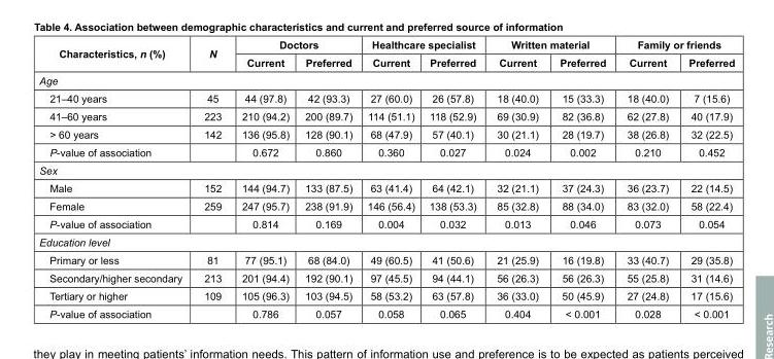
<table><thead><tr><td rowspan="2">Characteristics, n (%)</td><td rowspan="2">N</td><td colspan="2">Doctors</td><td colspan="2">Healthcare specialist</td><td colspan="2">Written material</td><td colspan="2">Family or friends</td></tr><tr><td>Current</td><td>Preferred</td><td>Current</td><td>Preferred</td><td>Current</td><td>Preferred</td><td>Current</td><td>Preferred</td></tr></thead><tbody><tr><td colspan="10">Age</td></tr><tr><td>21–40 years</td><td>45</td><td>44 (97.8)</td><td>42 (93.3)</td><td>27 (60.0)</td><td>26 (57.8)</td><td>18 (40.0)</td><td>15 (33.3)</td><td>18 (40.0)</td><td>7 (15.6)</td></tr><tr><td>41–60 years</td><td>223</td><td>210 (94.2)</td><td>200 (89.7)</td><td>114 (51.1)</td><td>118 (52.9)</td><td>69 (30.9)</td><td>82 (36.8)</td><td>62 (27.8)</td><td>40 (17.9)</td></tr><tr><td>&gt; 60 years</td><td>142</td><td>136 (95.8)</td><td>128 (90.1)</td><td>68 (47.9)</td><td>57 (40.1)</td><td>30 (21.1)</td><td>28 (19.7)</td><td>38 (26.8)</td><td>32 (22.5)</td></tr><tr><td>P-value of association</td><td></td><td>0.672</td><td>0.860</td><td>0.360</td><td>0.027</td><td>0.024</td><td>0.002</td><td>0.210</td><td>0.452</td></tr><tr><td colspan="10">Sex</td></tr><tr><td>Male</td><td>152</td><td>144 (94.7)</td><td>133 (87.5)</td><td>63 (41.4)</td><td>64 (42.1)</td><td>32 (21.1)</td><td>37 (24.3)</td><td>36 (23.7)</td><td>22 (14.5)</td></tr><tr><td>Female</td><td>259</td><td>247 (95.7)</td><td>238 (91.9)</td><td>146 (56.4)</td><td>138 (53.3)</td><td>85 (32.8)</td><td>88 (34.0)</td><td>83 (32.0)</td><td>58 (22.4)</td></tr><tr><td>P-value of association</td><td></td><td>0.814</td><td>0.169</td><td>0.004</td><td>0.032</td><td>0.013</td><td>0.046</td><td>0.073</td><td>0.054</td></tr><tr><td colspan="10">Education level</td></tr><tr><td>Primary or less</td><td>81</td><td>77 (95.1)</td><td>68 (84.0)</td><td>49 (60.5)</td><td>41 (50.6)</td><td>21 (25.9)</td><td>16 (19.8)</td><td>33 (40.7)</td><td>29 (35.8)</td></tr><tr><td>Secondary/higher secondary</td><td>213</td><td>201 (94.4)</td><td>192 (90.1)</td><td>97 (45.5)</td><td>94 (44.1)</td><td>56 (26.3)</td><td>56 (26.3)</td><td>55 (25.8)</td><td>31 (14.6)</td></tr><tr><td>Tertiary or higher</td><td>109</td><td>105 (96.3)</td><td>103 (94.5)</td><td>58 (53.2)</td><td>63 (57.8)</td><td>36 (33.0)</td><td>50 (45.9)</td><td>27 (24.8)</td><td>17 (15.6)</td></tr><tr><td>P-value of association</td><td></td><td>0.786</td><td>0.057</td><td>0.058</td><td>0.065</td><td>0.404</td><td>&lt; 0.001</td><td>0.028</td><td>&lt; 0.001</td></tr></tbody></table>